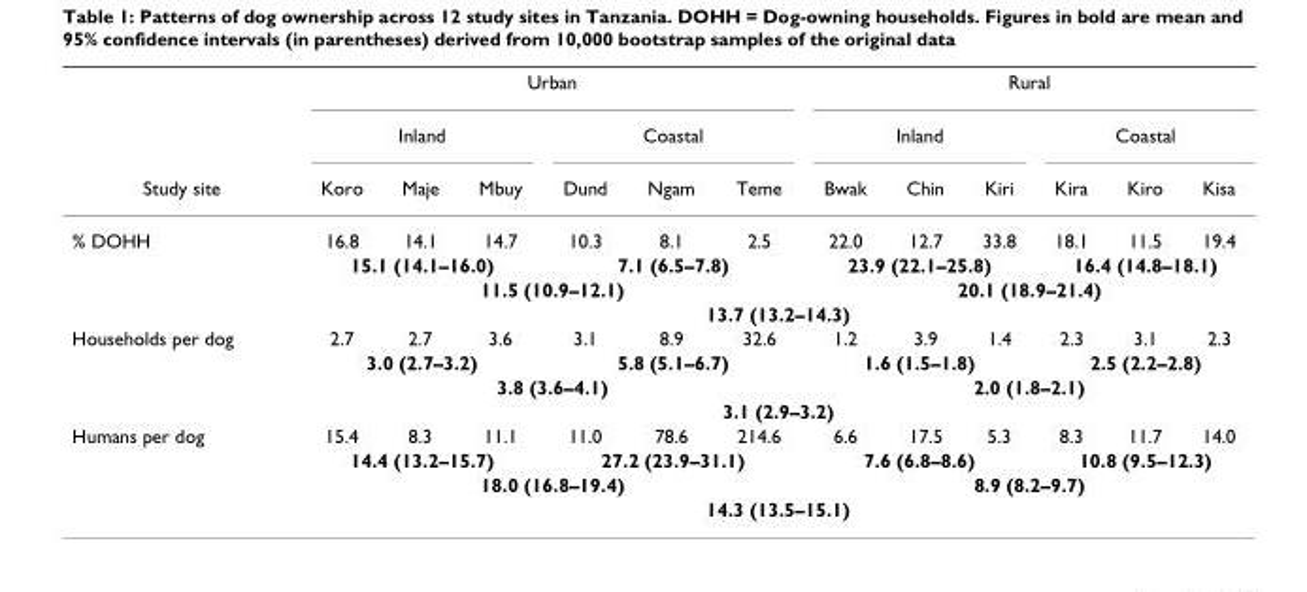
<table><thead><tr><td rowspan="3">Study site</td><td colspan="6">Urban</td><td colspan="6">Rural</td></tr><tr><td colspan="3">Inland</td><td colspan="3">Coastal</td><td colspan="3">Inland</td><td colspan="3">Coastal</td></tr><tr><td>Koro</td><td>Maje</td><td>Mbuy</td><td>Dund</td><td>Ngam</td><td>Teme</td><td>Bwak</td><td>Chin</td><td>Kiri</td><td>Kira</td><td>Kiro</td><td>Kisa</td></tr></thead><tbody><tr><td rowspan="4">% DOHH</td><td>16.8</td><td>14.1</td><td>14.7</td><td>10.3</td><td>8.1</td><td>2.5</td><td>22.0</td><td>12.7</td><td>33.8</td><td>18.1</td><td>11.5</td><td>19.4</td></tr><tr><td colspan="3">15.1 (14.1–16.0)</td><td colspan="3">7.1 (6.5–7.8)</td><td colspan="3">23.9 (22.1–25.8)</td><td colspan="3">16.4 (14.8–18.1)</td></tr><tr><td colspan="6">11.5 (10.9–12.1)</td><td colspan="6">20.1 (18.9–21.4)</td></tr><tr><td colspan="12">13.7 (13.2–14.3)</td></tr><tr><td rowspan="4">Households per dog</td><td>2.7</td><td>2.7</td><td>3.6</td><td>3.1</td><td>8.9</td><td>32.6</td><td>1.2</td><td>3.9</td><td>1.4</td><td>2.3</td><td>3.1</td><td>2.3</td></tr><tr><td colspan="3">3.0 (2.7–3.2)</td><td colspan="3">5.8 (5.1–6.7)</td><td colspan="3">1.6 (1.5–1.8)</td><td colspan="3">2.5 (2.2–2.8)</td></tr><tr><td colspan="6">3.8 (3.6–4.1)</td><td colspan="6">2.0 (1.8–2.1)</td></tr><tr><td colspan="12">3.1 (2.9–3.2)</td></tr><tr><td rowspan="4">Humans per dog</td><td>15.4</td><td>8.3</td><td>11.1</td><td>11.0</td><td>78.6</td><td>214.6</td><td>6.6</td><td>17.5</td><td>5.3</td><td>8.3</td><td>11.7</td><td>14.0</td></tr><tr><td colspan="3">14.4 (13.2–15.7)</td><td colspan="3">27.2 (23.9–31.1)</td><td colspan="3">7.6 (6.8–8.6)</td><td colspan="3">10.8 (9.5–12.3)</td></tr><tr><td colspan="6">18.0 (16.8–19.4)</td><td colspan="6">8.9 (8.2–9.7)</td></tr><tr><td colspan="12">14.3 (13.5–15.1)</td></tr></tbody></table>